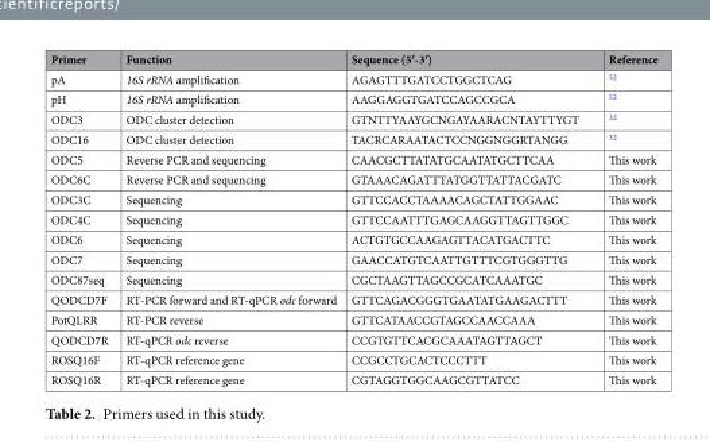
<table><thead><tr><td>Primer</td><td>Function</td><td>Sequence (5′-3′)</td><td>Reference</td></tr></thead><tbody><tr><td>pA</td><td>16S rRNA amplification</td><td>AGAGTTTGATCCTGGCTCAG</td><td><sup>52</sup></td></tr><tr><td>pH</td><td>16S rRNA amplification</td><td>AAGGAGGTGATCCAGCCGCA</td><td><sup>52</sup></td></tr><tr><td>ODC3</td><td>ODC cluster detection</td><td>GTNTTYAAYGCNGAYAARACNTAYTTYGT</td><td><sup>32</sup></td></tr><tr><td>ODC16</td><td>ODC cluster detection</td><td>TACRCARAATACTCCNGGNGGRTANGG</td><td><sup>32</sup></td></tr><tr><td>ODC5</td><td>Reverse PCR and sequencing</td><td>CAACGCTTATATGCAATATGCTTCAA</td><td>This work</td></tr><tr><td>ODC6C</td><td>Reverse PCR and sequencing</td><td>GTAAACAGATTTATGGTTATTACGATC</td><td>This work</td></tr><tr><td>ODC3C</td><td>Sequencing</td><td>GTTCCACCTAAAACAGCTATTGGAAC</td><td>This work</td></tr><tr><td>ODC4C</td><td>Sequencing</td><td>GTTCCAATTTGAGCAAGGTTAGTTGGC</td><td>This work</td></tr><tr><td>ODC6</td><td>Sequencing</td><td>ACTGTGCCAAGAGTTACATGACTTC</td><td>This work</td></tr><tr><td>ODC7</td><td>Sequencing</td><td>GAACCATGTCAATTGTTTCGTGGGTTG</td><td>This work</td></tr><tr><td>ODC87seq</td><td>Sequencing</td><td>CGCTAAGTTAGCCGCATCAAATGC</td><td>This work</td></tr><tr><td>QODCD7F</td><td>RT-PCR forward and RT-qPCR odc forward</td><td>GTTCAGACGGGTGAATATGAAGACTTT</td><td>This work</td></tr><tr><td>PotQLRR</td><td>RT-PCR reverse</td><td>GTTCATAACCGTAGCCAACCAAA</td><td>This work</td></tr><tr><td>QODCD7R</td><td>RT-qPCR odc reverse</td><td>CCGTGTTCACGCAAATAGTTAGCT</td><td>This work</td></tr><tr><td>ROSQ16F</td><td>RT-qPCR reference gene</td><td>CCGCCTGCACTCCCTTT</td><td>This work</td></tr><tr><td>ROSQ16R</td><td>RT-qPCR reference gene</td><td>CGTAGGTGGCAAGCGTTATCC</td><td>This work</td></tr></tbody></table>